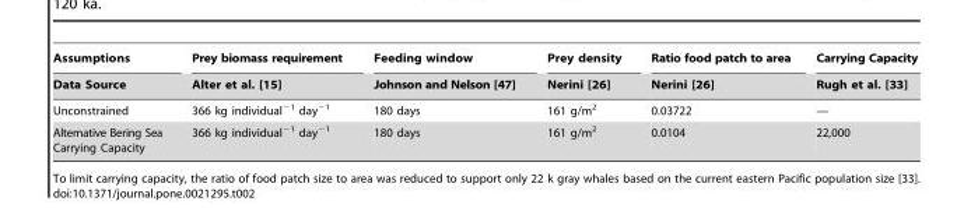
<table><thead><tr><td rowspan="2">Assumptions Data Source</td><td rowspan="2">Prey biomass requirement Alter et al. [15]</td><td rowspan="2">Feeding window Johnson and Nelson [47]</td><td rowspan="2">Prey density Nerini [26]</td><td rowspan="2">Ratio food patch to area Nerini [26]</td><td rowspan="2">Carrying Capacity Rugh et al. [33]</td></tr><tr></tr></thead><tbody><tr><td>Unconstrained</td><td>366 kg individual<sup>−1</sup> day<sup>−1</sup></td><td>180 days</td><td>161 g/m<sup>2</sup></td><td>0.03722</td><td>—</td></tr><tr><td>Alternative Bering Sea Carrying Capacity</td><td>366 kg individual<sup>−1</sup> day<sup>−1</sup></td><td>180 days</td><td>161 g/m<sup>2</sup></td><td>0.0104</td><td>22,000</td></tr></tbody></table>